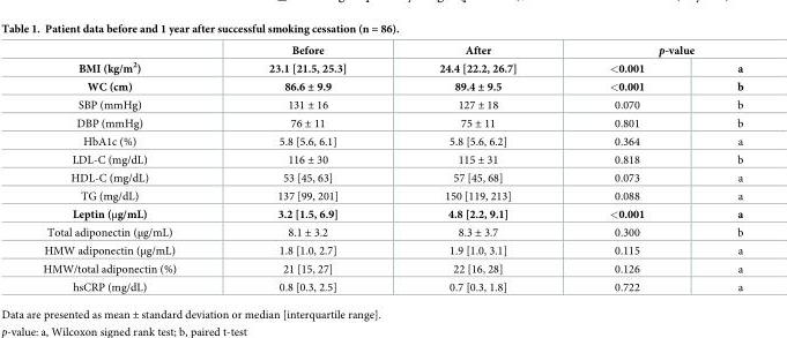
<table><thead><tr><td rowspan="2">BMI (kg/m<sup>2</sup>)</td><td rowspan="2">Before 23.1 [21.5, 25.3]</td><td rowspan="2">After 24.4 [22.2, 26.7]</td><td colspan="2">p-value</td></tr><tr><td>&lt;0.001</td><td>a</td></tr></thead><tbody><tr><td>WC (cm)</td><td>86.6 ± 9.9</td><td>89.4 ± 9.5</td><td>&lt;0.001</td><td>b</td></tr><tr><td>SBP (mmHg)</td><td>131 ± 16</td><td>127 ± 18</td><td>0.070</td><td>b</td></tr><tr><td>DBP (mmHg)</td><td>76 ± 11</td><td>75 ± 11</td><td>0.801</td><td>b</td></tr><tr><td>HbA1c (%)</td><td>5.8 [5.6, 6.1]</td><td>5.8 [5.6, 6.2]</td><td>0.364</td><td>a</td></tr><tr><td>LDL-C (mg/dL)</td><td>116 ± 30</td><td>115 ± 31</td><td>0.818</td><td>b</td></tr><tr><td>HDL-C (mg/dL)</td><td>53 [45, 63]</td><td>57 [45, 68]</td><td>0.073</td><td>a</td></tr><tr><td>TG (mg/dL)</td><td>137 [99, 201]</td><td>150 [119, 213]</td><td>0.088</td><td>a</td></tr><tr><td>Leptin (μg/mL)</td><td>3.2 [1.5, 6.9]</td><td>4.8 [2.2, 9.1]</td><td>&lt;0.001</td><td>a</td></tr><tr><td>Total adiponectin (μg/mL)</td><td>8.1 ± 3.2</td><td>8.3 ± 3.7</td><td>0.300</td><td>b</td></tr><tr><td>HMW adiponectin (μg/mL)</td><td>1.8 [1.0, 2.7]</td><td>1.9 [1.0, 3.1]</td><td>0.115</td><td>a</td></tr><tr><td>HMW/total adiponectin (%)</td><td>21 [15, 27]</td><td>22 [16, 28]</td><td>0.126</td><td>a</td></tr><tr><td>hsCRP (mg/dL)</td><td>0.8 [0.3, 2.5]</td><td>0.7 [0.3, 1.8]</td><td>0.722</td><td>a</td></tr></tbody></table>